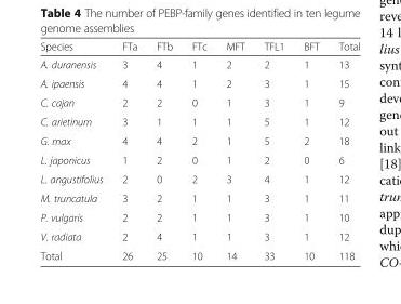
<table><thead><tr><td>Species</td><td>FTa</td><td>FTb</td><td>FTc</td><td>MFT</td><td>TFL1</td><td>BFT</td><td>Total</td></tr></thead><tbody><tr><td>A. duranensis</td><td>3</td><td>4</td><td>1</td><td>2</td><td>2</td><td>1</td><td>13</td></tr><tr><td>A. ipaensis</td><td>4</td><td>4</td><td>1</td><td>2</td><td>3</td><td>1</td><td>15</td></tr><tr><td>C. cajan</td><td>2</td><td>2</td><td>0</td><td>1</td><td>3</td><td>1</td><td>9</td></tr><tr><td>C. arietinum</td><td>3</td><td>1</td><td>1</td><td>1</td><td>5</td><td>1</td><td>12</td></tr><tr><td>G. max</td><td>4</td><td>4</td><td>2</td><td>1</td><td>5</td><td>2</td><td>18</td></tr><tr><td>L. japonicus</td><td>1</td><td>2</td><td>0</td><td>1</td><td>2</td><td>0</td><td>6</td></tr><tr><td>L. angustifolius</td><td>2</td><td>0</td><td>2</td><td>3</td><td>4</td><td>1</td><td>12</td></tr><tr><td>M. truncatula</td><td>3</td><td>2</td><td>1</td><td>1</td><td>3</td><td>1</td><td>11</td></tr><tr><td>P. vulgaris</td><td>2</td><td>2</td><td>1</td><td>1</td><td>3</td><td>1</td><td>10</td></tr><tr><td>V. radiata</td><td>2</td><td>4</td><td>1</td><td>1</td><td>3</td><td>1</td><td>12</td></tr><tr><td>Total</td><td>26</td><td>25</td><td>10</td><td>14</td><td>33</td><td>10</td><td>118</td></tr></tbody></table>